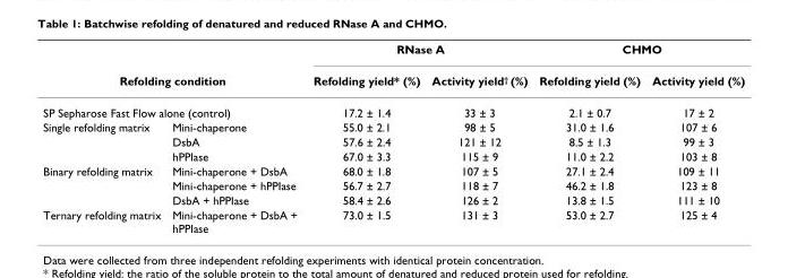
<table><thead><tr><td></td><td></td><td colspan="2">RNase A</td><td colspan="2">CHMO</td></tr><tr><td colspan="2">Refolding condition</td><td>Refolding yield* (%)</td><td>Activity yield<sup>†</sup> (%)</td><td>Refolding yield (%)</td><td>Activity yield (%)</td></tr></thead><tbody><tr><td colspan="2">SP Sepharose Fast Flow alone (control)</td><td>17.2 ± 1.4</td><td>33 ± 3</td><td>2.1 ± 0.7</td><td>17 ± 2</td></tr><tr><td rowspan="3">Single refolding matrix</td><td>Mini-chaperone</td><td>55.0 ± 2.1</td><td>98 ± 5</td><td>31.0 ± 1.6</td><td>107 ± 6</td></tr><tr><td>DsbA</td><td>57.6 ± 2.4</td><td>121 ± 12</td><td>8.5 ± 1.3</td><td>99 ± 3</td></tr><tr><td>hPPIase</td><td>67.0 ± 3.3</td><td>115 ± 9</td><td>11.0 ± 2.2</td><td>103 ± 8</td></tr><tr><td rowspan="3">Binary refolding matrix</td><td>Mini-chaperone + DsbA</td><td>68.0 ± 1.8</td><td>107 ± 5</td><td>27.1 ± 2.4</td><td>109 ± 11</td></tr><tr><td>Mini-chaperone + hPPIase</td><td>56.7 ± 2.7</td><td>118 ± 7</td><td>46.2 ± 1.8</td><td>123 ± 8</td></tr><tr><td>DsbA + hPPIase</td><td>58.4 ± 2.6</td><td>126 ± 2</td><td>13.8 ± 1.5</td><td>111 ± 10</td></tr><tr><td>Ternary refolding matrix</td><td>Mini-chaperone + DsbA + hPPIase</td><td>73.0 ± 1.5</td><td>131 ± 3</td><td>53.0 ± 2.7</td><td>125 ± 4</td></tr></tbody></table>